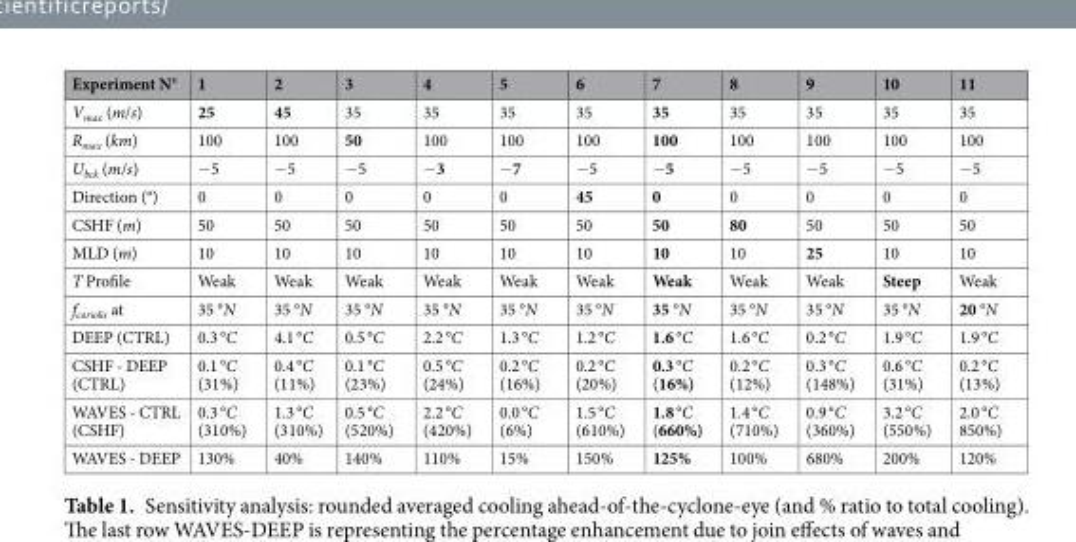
<table><thead><tr><td>Experiment N°</td><td>1</td><td>2</td><td>3</td><td>4</td><td>5</td><td>6</td><td>7</td><td>8</td><td>9</td><td>10</td><td>11</td></tr></thead><tbody><tr><td>V<sub>max</sub> (m/s)</td><td>25</td><td>45</td><td>35</td><td>35</td><td>35</td><td>35</td><td>35</td><td>35</td><td>35</td><td>35</td><td>35</td></tr><tr><td>R<sub>max</sub> (km)</td><td>100</td><td>100</td><td>50</td><td>100</td><td>100</td><td>100</td><td>100</td><td>100</td><td>100</td><td>100</td><td>100</td></tr><tr><td>U<sub>bck</sub> (m/s)</td><td>−5</td><td>−5</td><td>−5</td><td>−3</td><td>−7</td><td>−5</td><td>−5</td><td>−5</td><td>−5</td><td>−5</td><td>−5</td></tr><tr><td>Direction (°)</td><td>0</td><td>0</td><td>0</td><td>0</td><td>0</td><td>45</td><td>0</td><td>0</td><td>0</td><td>0</td><td>0</td></tr><tr><td>CSHF (m)</td><td>50</td><td>50</td><td>50</td><td>50</td><td>50</td><td>50</td><td>50</td><td>80</td><td>50</td><td>50</td><td>50</td></tr><tr><td>MLD (m)</td><td>10</td><td>10</td><td>10</td><td>10</td><td>10</td><td>10</td><td>10</td><td>10</td><td>25</td><td>10</td><td>10</td></tr><tr><td>T Profile</td><td>Weak</td><td>Weak</td><td>Weak</td><td>Weak</td><td>Weak</td><td>Weak</td><td>Weak</td><td>Weak</td><td>Weak</td><td>Steep</td><td>Weak</td></tr><tr><td>f<sub>coriolis</sub> at</td><td>35 °N</td><td>35 °N</td><td>35 °N</td><td>35 °N</td><td>35 °N</td><td>35 °N</td><td>35 °N</td><td>35 °N</td><td>35 °N</td><td>35 °N</td><td>20 °N</td></tr><tr><td>DEEP (CTRL)</td><td>0.3 °C</td><td>4.1 °C</td><td>0.5 °C</td><td>2.2 °C</td><td>1.3 °C</td><td>1.2 °C</td><td>1.6 °C</td><td>1.6 °C</td><td>0.2 °C</td><td>1.9 °C</td><td>1.9 °C</td></tr><tr><td>CSHF - DEEP (CTRL)</td><td>0.1 °C (31%)</td><td>0.4 °C (11%)</td><td>0.1 °C (23%)</td><td>0.5 °C (24%)</td><td>0.2 °C (16%)</td><td>0.2 °C (20%)</td><td>0.3 °C (16%)</td><td>0.2 °C (12%)</td><td>0.3 °C (148%)</td><td>0.6 °C (31%)</td><td>0.2 °C (13%)</td></tr><tr><td>WAVES - CTRL (CSHF)</td><td>0.3 °C (310%)</td><td>1.3 °C (310%)</td><td>0.5 °C (520%)</td><td>2.2 °C (420%)</td><td>0.0 °C (6%)</td><td>1.5 °C (610%)</td><td>1.8 °C (660%)</td><td>1.4 °C (710%)</td><td>0.9 °C (360%)</td><td>3.2 °C (550%)</td><td>2.0 °C 850%)</td></tr><tr><td>WAVES - DEEP</td><td>130%</td><td>40%</td><td>140%</td><td>110%</td><td>15%</td><td>150%</td><td>125%</td><td>100%</td><td>680%</td><td>200%</td><td>120%</td></tr></tbody></table>